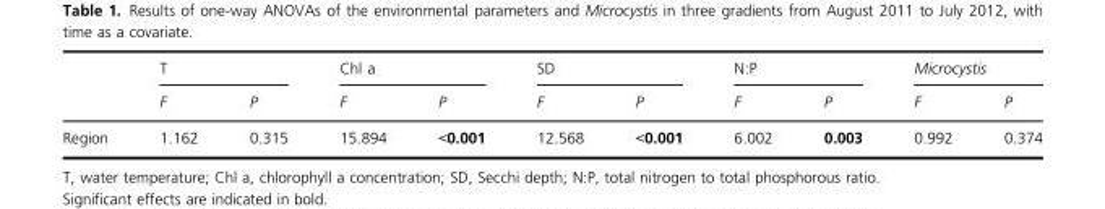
<table><thead><tr><td rowspan="2"></td><td colspan="2">T</td><td colspan="2">Chl a</td><td colspan="2">SD</td><td colspan="2">N:P</td><td colspan="2">Microcystis</td></tr><tr><td>F</td><td>P</td><td>F</td><td>P</td><td>F</td><td>P</td><td>F</td><td>P</td><td>F</td><td>P</td></tr></thead><tbody><tr><td>Region</td><td>1.162</td><td>0.315</td><td>15.894</td><td>&lt;0.001</td><td>12.568</td><td>&lt;0.001</td><td>6.002</td><td>0.003</td><td>0.992</td><td>0.374</td></tr></tbody></table>